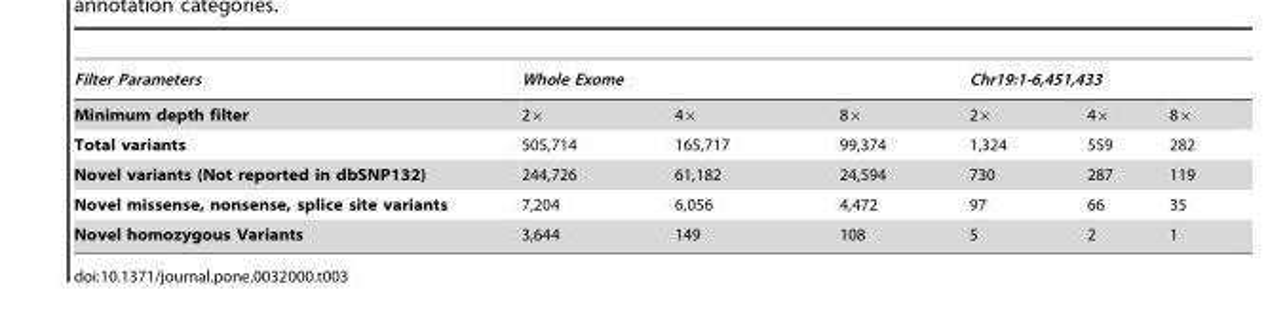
<table><thead><tr><td rowspan="2">Filter Parameters Minimum depth filter</td><td colspan="3">Whole Exome</td><td colspan="3">Chr19:1-6,451,433</td></tr><tr><td>2×</td><td>4×</td><td>8×</td><td>2×</td><td>4×</td><td>8×</td></tr></thead><tbody><tr><td>Total variants</td><td>505,714</td><td>165,717</td><td>99,374</td><td>1,324</td><td>559</td><td>282</td></tr><tr><td>Novel variants (Not reported in dbSNP132)</td><td>244,726</td><td>61,182</td><td>24,594</td><td>730</td><td>287</td><td>119</td></tr><tr><td>Novel missense, nonsense, splice site variants</td><td>7,204</td><td>6,056</td><td>4,472</td><td>97</td><td>66</td><td>35</td></tr><tr><td>Novel homozygous Variants</td><td>3,644</td><td>149</td><td>108</td><td>5</td><td>2</td><td>1</td></tr></tbody></table>